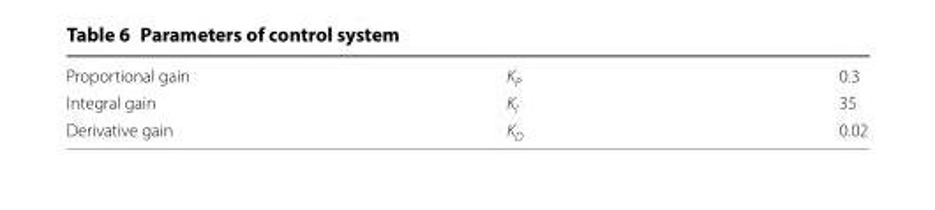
<table><tbody><tr><td>Proportional gain</td><td>K<sub>P</sub></td><td>0.3</td></tr><tr><td>Integral gain</td><td>K<sub>I</sub></td><td>35</td></tr><tr><td>Derivative gain</td><td>K<sub>D</sub></td><td>0.02</td></tr></tbody></table>